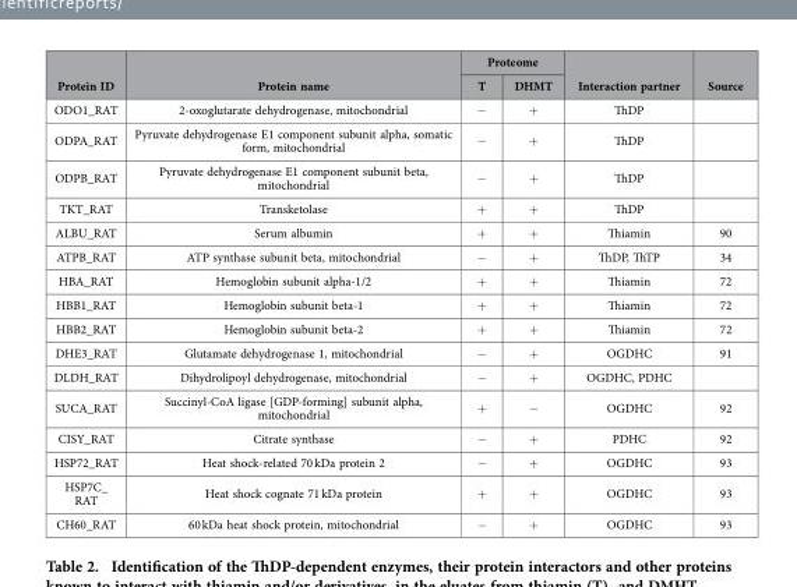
<table><thead><tr><td rowspan="2">Protein ID</td><td rowspan="2">Protein name</td><td colspan="2">Proteome</td><td rowspan="2">Interaction partner</td><td rowspan="2">Source</td></tr><tr><td>T</td><td>DHMT</td></tr></thead><tbody><tr><td>ODO1_RAT</td><td>2-oxoglutarate dehydrogenase, mitochondrial</td><td>−</td><td>+</td><td>ThDP</td><td></td></tr><tr><td>ODPA_RAT</td><td>Pyruvate dehydrogenase E1 component subunit alpha, somatic form, mitochondrial</td><td>−</td><td>+</td><td>ThDP</td><td></td></tr><tr><td>ODPB_RAT</td><td>Pyruvate dehydrogenase E1 component subunit beta, mitochondrial</td><td>−</td><td>+</td><td>ThDP</td><td></td></tr><tr><td>TKT_RAT</td><td>Transketolase</td><td>+</td><td>+</td><td>ThDP</td><td></td></tr><tr><td>ALBU_RAT</td><td>Serum albumin</td><td>+</td><td>+</td><td>Thiamin</td><td>90</td></tr><tr><td>ATPB_RAT</td><td>ATP synthase subunit beta, mitochondrial</td><td>−</td><td>+</td><td>ThDP, ThTP</td><td>34</td></tr><tr><td>HBA_RAT</td><td>Hemoglobin subunit alpha-1/2</td><td>+</td><td>+</td><td>Thiamin</td><td>72</td></tr><tr><td>HBB1_RAT</td><td>Hemoglobin subunit beta-1</td><td>+</td><td>+</td><td>Thiamin</td><td>72</td></tr><tr><td>HBB2_RAT</td><td>Hemoglobin subunit beta-2</td><td>+</td><td>+</td><td>Thiamin</td><td>72</td></tr><tr><td>DHE3_RAT</td><td>Glutamate dehydrogenase 1, mitochondrial</td><td>−</td><td>+</td><td>OGDHC</td><td>91</td></tr><tr><td>DLDH_RAT</td><td>Dihydrolipoyl dehydrogenase, mitochondrial</td><td>−</td><td>+</td><td>OGDHC, PDHC</td><td></td></tr><tr><td>SUCA_RAT</td><td>Succinyl-CoA ligase [GDP-forming] subunit alpha, mitochondrial</td><td>+</td><td>−</td><td>OGDHC</td><td>92</td></tr><tr><td>CISY_RAT</td><td>Citrate synthase</td><td>−</td><td>+</td><td>PDHC</td><td>92</td></tr><tr><td>HSP72_RAT</td><td>Heat shock-related 70 kDa protein 2</td><td>−</td><td>+</td><td>OGDHC</td><td>93</td></tr><tr><td>HSP7C_ RAT</td><td>Heat shock cognate 71 kDa protein</td><td>+</td><td>+</td><td>OGDHC</td><td>93</td></tr><tr><td>CH60_RAT</td><td>60 kDa heat shock protein, mitochondrial</td><td>−</td><td>+</td><td>OGDHC</td><td>93</td></tr></tbody></table>